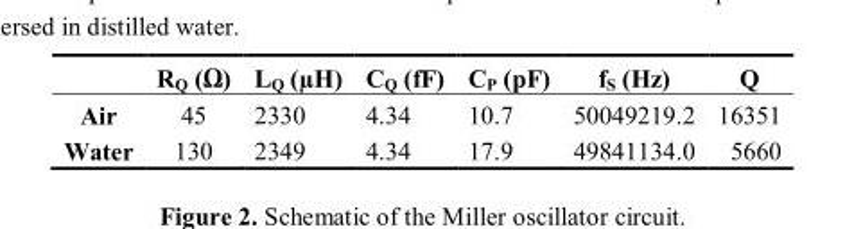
<table><thead><tr><td></td><td>R<sub>Q</sub> (Ω)</td><td>L<sub>Q</sub> (µH)</td><td>C<sub>Q</sub> (fF)</td><td>C<sub>P</sub> (pF)</td><td>f<sub>S</sub> (Hz)</td><td>Q</td></tr></thead><tbody><tr><td>Air</td><td>45</td><td>2330</td><td>4.34</td><td>10.7</td><td>50049219.2</td><td>16351</td></tr><tr><td>Water</td><td>130</td><td>2349</td><td>4.34</td><td>17.9</td><td>49841134.0</td><td>5660</td></tr></tbody></table>